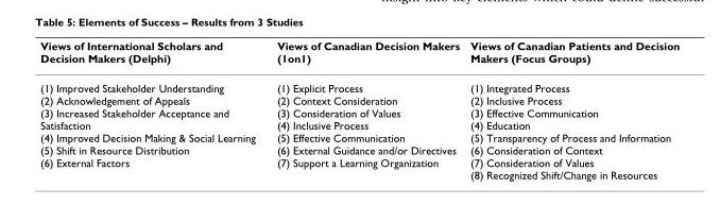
<table><thead><tr><td>Views of International Scholars and Decision Makers (Delphi)</td><td>Views of Canadian Decision Makers (1on1)</td><td>Views of Canadian Patients and Decision Makers (Focus Groups)</td></tr></thead><tbody><tr><td>(1) Improved Stakeholder Understanding (2) Acknowledgement of Appeals (3) Increased Stakeholder Acceptance and Satisfaction (4) Improved Decision Making &amp; Social Learning (5) Shift in Resource Distribution (6) External Factors</td><td>(1) Explicit Process (2) Context Consideration (3) Consideration of Values (4) Inclusive Process (5) Effective Communication (6) External Guidance and/or Directives (7) Support a Learning Organization</td><td>(1) Integrated Process (2) Inclusive Process (3) Effective Communication (4) Education (5) Transparency of Process and Information (6) Consideration of Context (7) Consideration of Values (8) Recognized Shift/Change in Resources</td></tr></tbody></table>